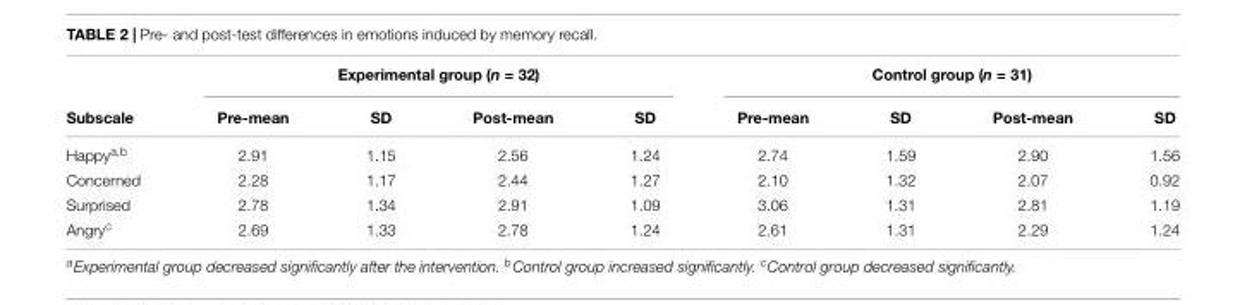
<table><thead><tr><td rowspan="2">Subscale</td><td colspan="4">Experimental group (n = 32)</td><td colspan="4">Control group (n = 31)</td></tr><tr><td>Pre-mean</td><td>SD</td><td>Post-mean</td><td>SD</td><td>Pre-mean</td><td>SD</td><td>Post-mean</td><td>SD</td></tr></thead><tbody><tr><td>Happy<sup>a,b</sup></td><td>2.91</td><td>1.15</td><td>2.56</td><td>1.24</td><td>2.74</td><td>1.59</td><td>2.90</td><td>1.56</td></tr><tr><td>Concerned</td><td>2.28</td><td>1.17</td><td>2.44</td><td>1.27</td><td>2.10</td><td>1.32</td><td>2.07</td><td>0.92</td></tr><tr><td>Surprised</td><td>2.78</td><td>1.34</td><td>2.91</td><td>1.09</td><td>3.06</td><td>1.31</td><td>2.81</td><td>1.19</td></tr><tr><td>Angry<sup>c</sup></td><td>2.69</td><td>1.33</td><td>2.78</td><td>1.24</td><td>2.61</td><td>1.31</td><td>2.29</td><td>1.24</td></tr></tbody></table>